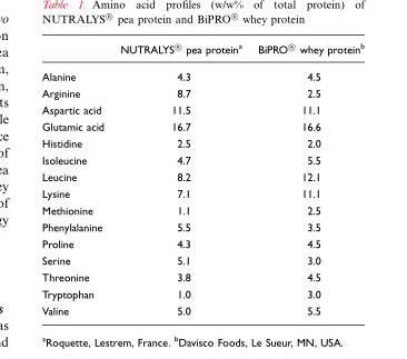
<table><thead><tr><td></td><td>NUTRALYS† pea proteina</td><td>BiPRO† whey proteinb</td></tr></thead><tbody><tr><td>Alanine</td><td>4.3</td><td>4.5</td></tr><tr><td>Arginine</td><td>8.7</td><td>2.5</td></tr><tr><td>Aspartic acid</td><td>11.5</td><td>11.1</td></tr><tr><td>Glutamic acid</td><td>16.7</td><td>16.6</td></tr><tr><td>Histidine</td><td>2.5</td><td>2.0</td></tr><tr><td>Isoleucine</td><td>4.7</td><td>5.5</td></tr><tr><td>Leucine</td><td>8.2</td><td>12.1</td></tr><tr><td>Lysine</td><td>7.1</td><td>11.1</td></tr><tr><td>Methionine</td><td>1.1</td><td>2.5</td></tr><tr><td>Phenylalanine</td><td>5.5</td><td>3.5</td></tr><tr><td>Proline</td><td>4.3</td><td>4.5</td></tr><tr><td>Serine</td><td>5.1</td><td>3.0</td></tr><tr><td>Threonine</td><td>3.8</td><td>4.5</td></tr><tr><td>Tryptophan</td><td>1.0</td><td>3.0</td></tr><tr><td>Valine</td><td>5.0</td><td>5.5</td></tr></tbody></table>